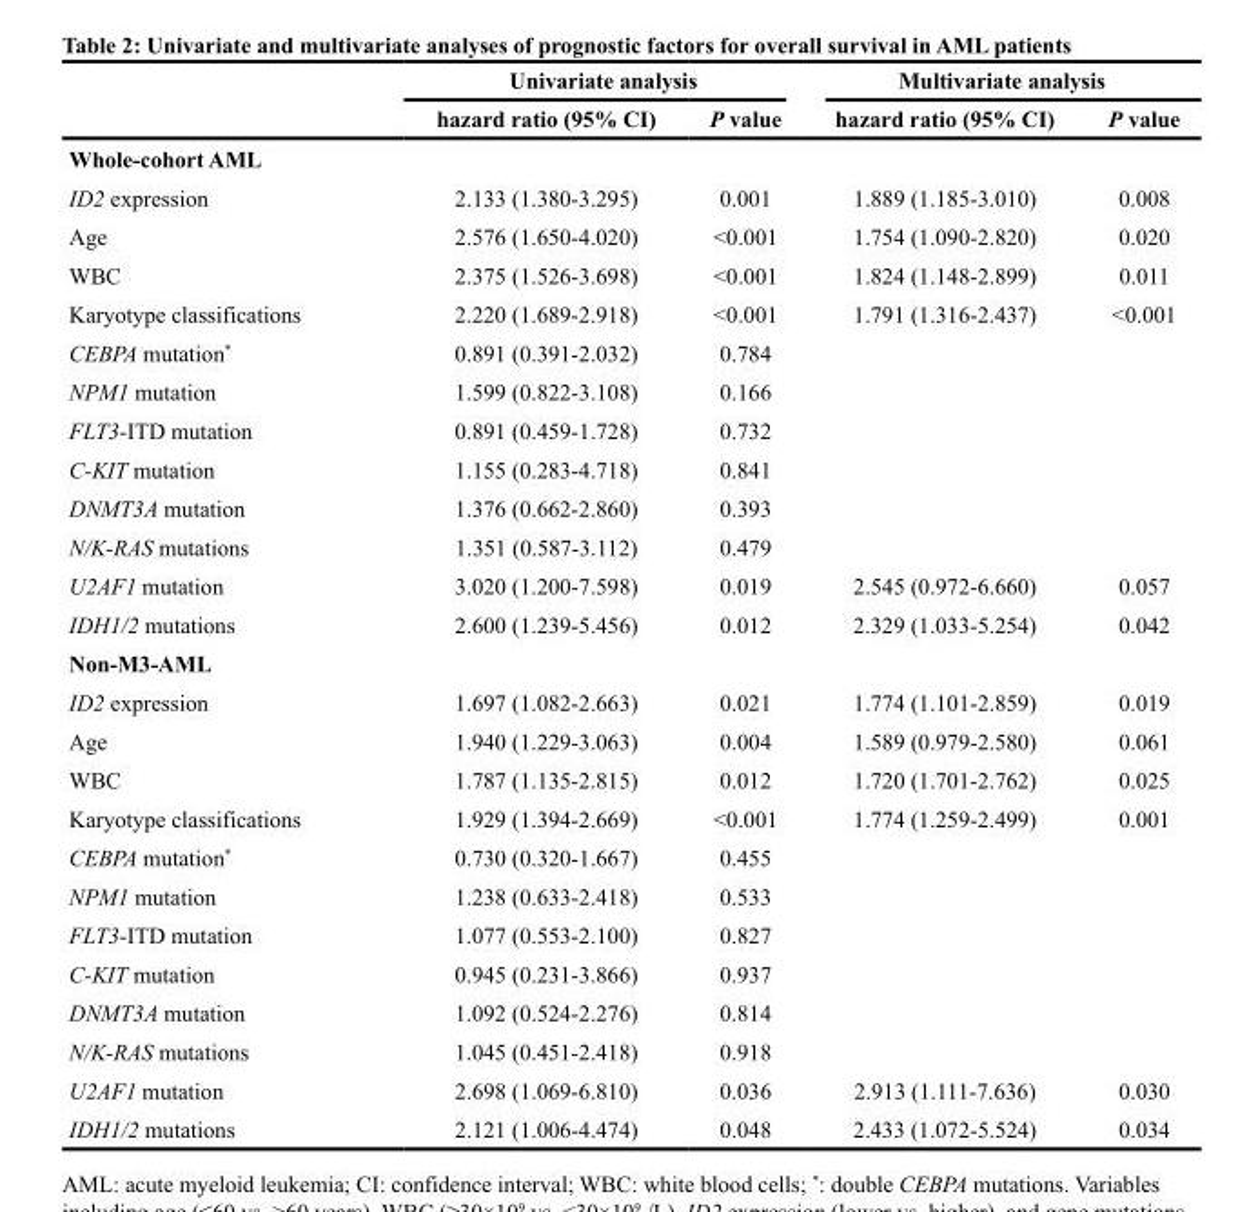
<table><thead><tr><td rowspan="2"></td><td colspan="2">Univariate analysis</td><td colspan="2">Multivariate analysis</td></tr><tr><td>hazard ratio (95% CI)</td><td>P value</td><td>hazard ratio (95% CI)</td><td>P value</td></tr></thead><tbody><tr><td colspan="5">Whole-cohort AML</td></tr><tr><td>ID2 expression</td><td>2.133 (1.380-3.295)</td><td>0.001</td><td>1.889 (1.185-3.010)</td><td>0.008</td></tr><tr><td>Age</td><td>2.576 (1.650-4.020)</td><td>&lt;0.001</td><td>1.754 (1.090-2.820)</td><td>0.020</td></tr><tr><td>WBC</td><td>2.375 (1.526-3.698)</td><td>&lt;0.001</td><td>1.824 (1.148-2.899)</td><td>0.011</td></tr><tr><td>Karyotype classifications</td><td>2.220 (1.689-2.918)</td><td>&lt;0.001</td><td>1.791 (1.316-2.437)</td><td>&lt;0.001</td></tr><tr><td>CEBPA mutation*</td><td>0.891 (0.391-2.032)</td><td>0.784</td><td></td><td></td></tr><tr><td>NPM1 mutation</td><td>1.599 (0.822-3.108)</td><td>0.166</td><td></td><td></td></tr><tr><td>FLT3-ITD mutation</td><td>0.891 (0.459-1.728)</td><td>0.732</td><td></td><td></td></tr><tr><td>C-KIT mutation</td><td>1.155 (0.283-4.718)</td><td>0.841</td><td></td><td></td></tr><tr><td>DNMT3A mutation</td><td>1.376 (0.662-2.860)</td><td>0.393</td><td></td><td></td></tr><tr><td>N/K-RAS mutations</td><td>1.351 (0.587-3.112)</td><td>0.479</td><td></td><td></td></tr><tr><td>U2AF1 mutation</td><td>3.020 (1.200-7.598)</td><td>0.019</td><td>2.545 (0.972-6.660)</td><td>0.057</td></tr><tr><td>IDH1/2 mutations</td><td>2.600 (1.239-5.456)</td><td>0.012</td><td>2.329 (1.033-5.254)</td><td>0.042</td></tr><tr><td colspan="5">Non-M3-AML</td></tr><tr><td>ID2 expression</td><td>1.697 (1.082-2.663)</td><td>0.021</td><td>1.774 (1.101-2.859)</td><td>0.019</td></tr><tr><td>Age</td><td>1.940 (1.229-3.063)</td><td>0.004</td><td>1.589 (0.979-2.580)</td><td>0.061</td></tr><tr><td>WBC</td><td>1.787 (1.135-2.815)</td><td>0.012</td><td>1.720 (1.701-2.762)</td><td>0.025</td></tr><tr><td>Karyotype classifications</td><td>1.929 (1.394-2.669)</td><td>&lt;0.001</td><td>1.774 (1.259-2.499)</td><td>0.001</td></tr><tr><td>CEBPA mutation*</td><td>0.730 (0.320-1.667)</td><td>0.455</td><td></td><td></td></tr><tr><td>NPM1 mutation</td><td>1.238 (0.633-2.418)</td><td>0.533</td><td></td><td></td></tr><tr><td>FLT3-ITD mutation</td><td>1.077 (0.553-2.100)</td><td>0.827</td><td></td><td></td></tr><tr><td>C-KIT mutation</td><td>0.945 (0.231-3.866)</td><td>0.937</td><td></td><td></td></tr><tr><td>DNMT3A mutation</td><td>1.092 (0.524-2.276)</td><td>0.814</td><td></td><td></td></tr><tr><td>N/K-RAS mutations</td><td>1.045 (0.451-2.418)</td><td>0.918</td><td></td><td></td></tr><tr><td>U2AF1 mutation</td><td>2.698 (1.069-6.810)</td><td>0.036</td><td>2.913 (1.111-7.636)</td><td>0.030</td></tr><tr><td>IDH1/2 mutations</td><td>2.121 (1.006-4.474)</td><td>0.048</td><td>2.433 (1.072-5.524)</td><td>0.034</td></tr></tbody></table>